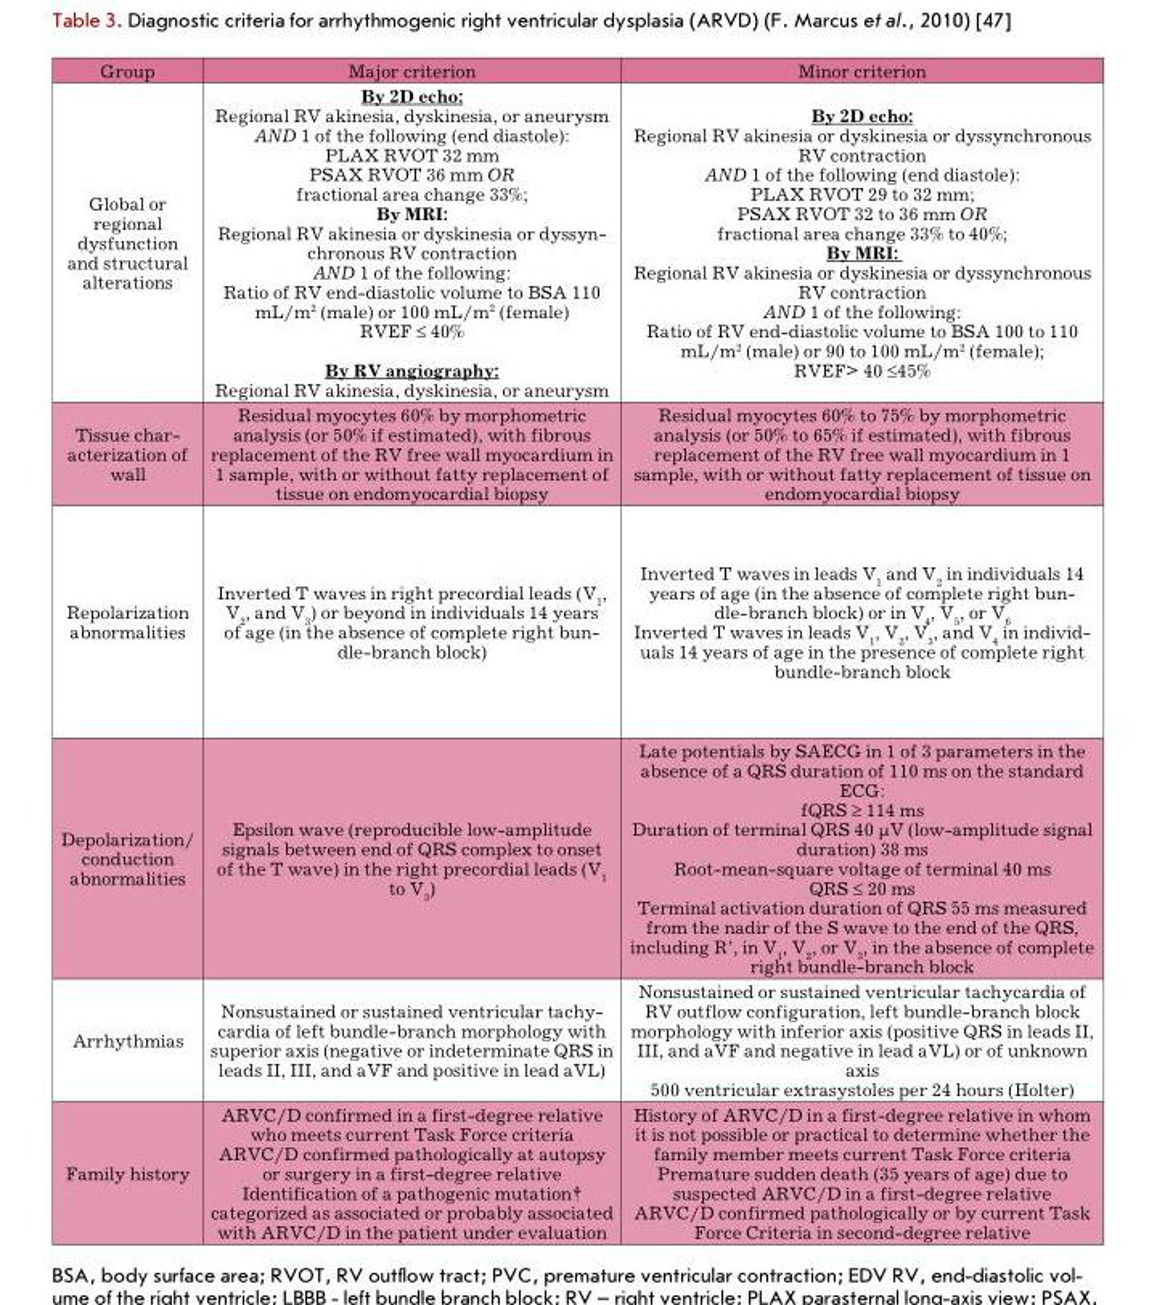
<table><thead><tr><td>Group</td><td>Major criterion</td><td>Minor criterion</td></tr></thead><tbody><tr><td>Global or regional dysfunction and structural alterations</td><td>By 2D echo: Regional RV akinesia, dyskinesia, or aneurysm AND 1 of the following (end diastole): PLAX RVOT 32 mm PSAX RVOT 36 mm OR fractional area change 33%; By MRI: Regional RV akinesia or dyskinesia or dyssyn- chronous RV contraction AND 1 of the following: Ratio of RV end-diastolic volume to BSA 110 mL/m2 (male) or 100 mL/m2 (female) RVEF ≤ 40% By RV angiography: Regional RV akinesia, dyskinesia, or aneurysm</td><td>By 2D echo: Regional RV akinesia or dyskinesia or dyssynchronous RV contraction AND 1 of the following (end diastole): PLAX RVOT 29 to 32 mm; PSAX RVOT 32 to 36 mm OR fractional area change 33% to 40%; By MRI: Regional RV akinesia or dyskinesia or dyssynchronous RV contraction AND 1 of the following: Ratio of RV end-diastolic volume to BSA 100 to 110 mL/m2 (male) or 90 to 100 mL/m2 (female); RVEF&gt; 40 ≤45%</td></tr><tr><td>Tissue char- acterization of wall</td><td>Residual myocytes 60% by morphometric analysis (or 50% if estimated), with fibrous replacement of the RV free wall myocardium in 1 sample, with or without fatty replacement of tissue on endomyocardial biopsy</td><td>Residual myocytes 60% to 75% by morphometric analysis (or 50% to 65% if estimated), with fibrous replacement of the RV free wall myocardium in 1 sample, with or without fatty replacement of tissue on endomyocardial biopsy</td></tr><tr><td>Repolarization abnormalities</td><td>Inverted T waves in right precordial leads (V1, V2, and V3) or beyond in individuals 14 years of age (in the absence of complete right bun- dle-branch block)</td><td>Inverted T waves in leads V1 and V2 in individuals 14 years of age (in the absence of complete right bun- dle-branch block) or in V4, V5, or V6 Inverted T waves in leads V1, V2, V3, and V4 in individ- uals 14 years of age in the presence of complete right bundle-branch block</td></tr><tr><td>Depolarization/ conduction abnormalities</td><td>Epsilon wave (reproducible low-amplitude signals between end of QRS complex to onset of the T wave) in the right precordial leads (V<sub>1</sub> to V<sub>3</sub>)</td><td>Late potentials by SAECG in 1 of 3 parameters in the absence of a QRS duration of 110 ms on the standard ECG: fQRS ≥ 114 ms Duration of terminal QRS 40 μV (low-amplitude signal duration) 38 ms Root-mean-square voltage of terminal 40 ms QRS ≤ 20 ms Terminal activation duration of QRS 55 ms measured from the nadir of the S wave to the end of the QRS, including R’, in V<sub>1</sub>, V<sub>2</sub>, or V<sub>3</sub>, in the absence of complete right bundle-branch block</td></tr><tr><td>Arrhythmias</td><td>Nonsustained or sustained ventricular tachy- cardia of left bundle-branch morphology with superior axis (negative or indeterminate QRS in leads II, III, and aVF and positive in lead aVL)</td><td>Nonsustained or sustained ventricular tachycardia of RV outflow configuration, left bundle-branch block morphology with inferior axis (positive QRS in leads II, III, and aVF and negative in lead aVL) or of unknown axis 500 ventricular extrasystoles per 24 hours (Holter)</td></tr><tr><td>Family history</td><td>ARVC/D confirmed in a first-degree relative who meets current Task Force criteria ARVC/D confirmed pathologically at autopsy or surgery in a first-degree relative Identification of a pathogenic mutation† categorized as associated or probably associated with ARVC/D in the patient under evaluation</td><td>History of ARVC/D in a first-degree relative in whom it is not possible or practical to determine whether the family member meets current Task Force criteria Premature sudden death (35 years of age) due to suspected ARVC/D in a first-degree relative ARVC/D confirmed pathologically or by current Task Force Criteria in second-degree relative</td></tr></tbody></table>